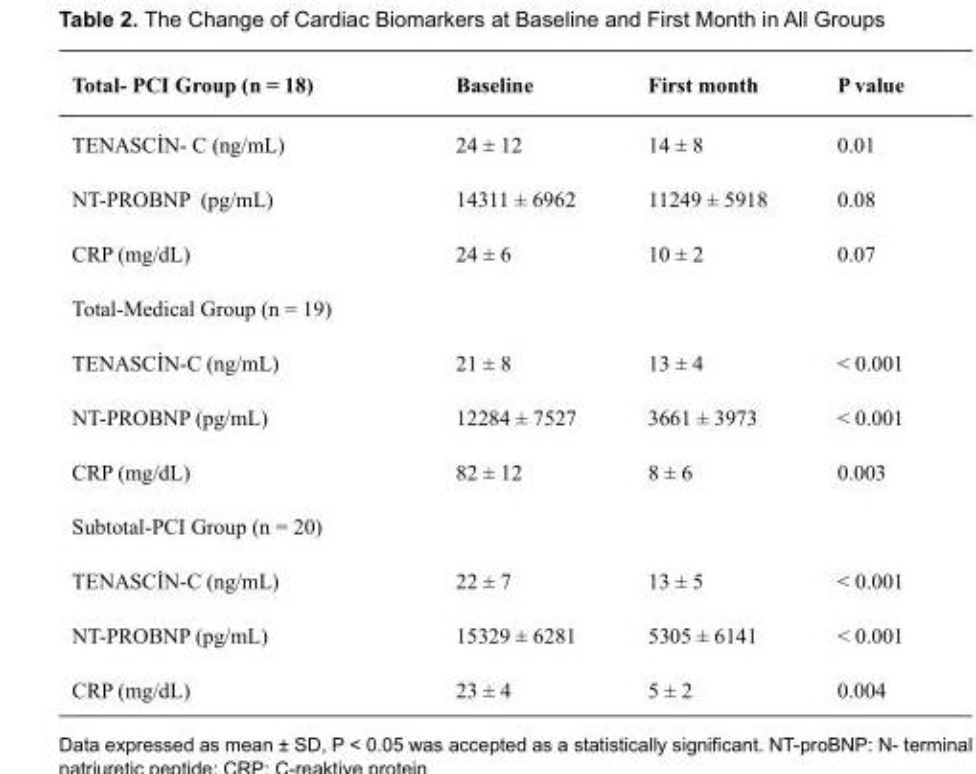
<table><thead><tr><td>Total- PCI Group (n = 18)</td><td>Baseline</td><td>First month</td><td>P value</td></tr></thead><tbody><tr><td>TENASCİN- C (ng/mL)</td><td>24 ± 12</td><td>14 ± 8</td><td>0.01</td></tr><tr><td>NT-PROBNP (pg/mL)</td><td>14311 ± 6962</td><td>11249 ± 5918</td><td>0.08</td></tr><tr><td>CRP (mg/dL)</td><td>24 ± 6</td><td>10 ± 2</td><td>0.07</td></tr><tr><td colspan="4">Total-Medical Group (n = 19)</td></tr><tr><td>TENASCİN-C (ng/mL)</td><td>21 ± 8</td><td>13 ± 4</td><td>&lt; 0.001</td></tr><tr><td>NT-PROBNP (pg/mL)</td><td>12284 ± 7527</td><td>3661 ± 3973</td><td>&lt; 0.001</td></tr><tr><td>CRP (mg/dL)</td><td>82 ± 12</td><td>8 ± 6</td><td>0.003</td></tr><tr><td colspan="4">Subtotal-PCI Group (n = 20)</td></tr><tr><td>TENASCİN-C (ng/mL)</td><td>22 ± 7</td><td>13 ± 5</td><td>&lt; 0.001</td></tr><tr><td>NT-PROBNP (pg/mL)</td><td>15329 ± 6281</td><td>5305 ± 6141</td><td>&lt; 0.001</td></tr><tr><td>CRP (mg/dL)</td><td>23 ± 4</td><td>5 ± 2</td><td>0.004</td></tr></tbody></table>